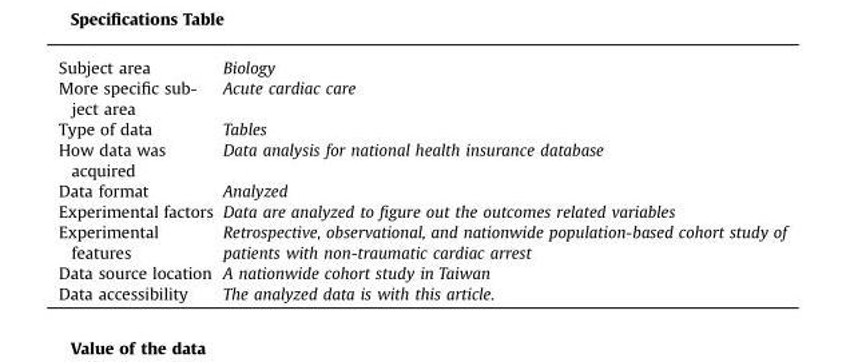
<table><tbody><tr><td>Subject area</td><td>Biology</td></tr><tr><td>More specific sub- ject area</td><td>Acute cardiac care</td></tr><tr><td>Type of data</td><td>Tables</td></tr><tr><td>How data was acquired</td><td>Data analysis for national health insurance database</td></tr><tr><td>Data format</td><td>Analyzed</td></tr><tr><td>Experimental factors</td><td>Data are analyzed to figure out the outcomes related variables</td></tr><tr><td>Experimental features</td><td>Retrospective, observational, and nationwide population-based cohort study of patients with non-traumatic cardiac arrest</td></tr><tr><td>Data source location</td><td>A nationwide cohort study in Taiwan</td></tr><tr><td>Data accessibility</td><td>The analyzed data is with this article.</td></tr></tbody></table>